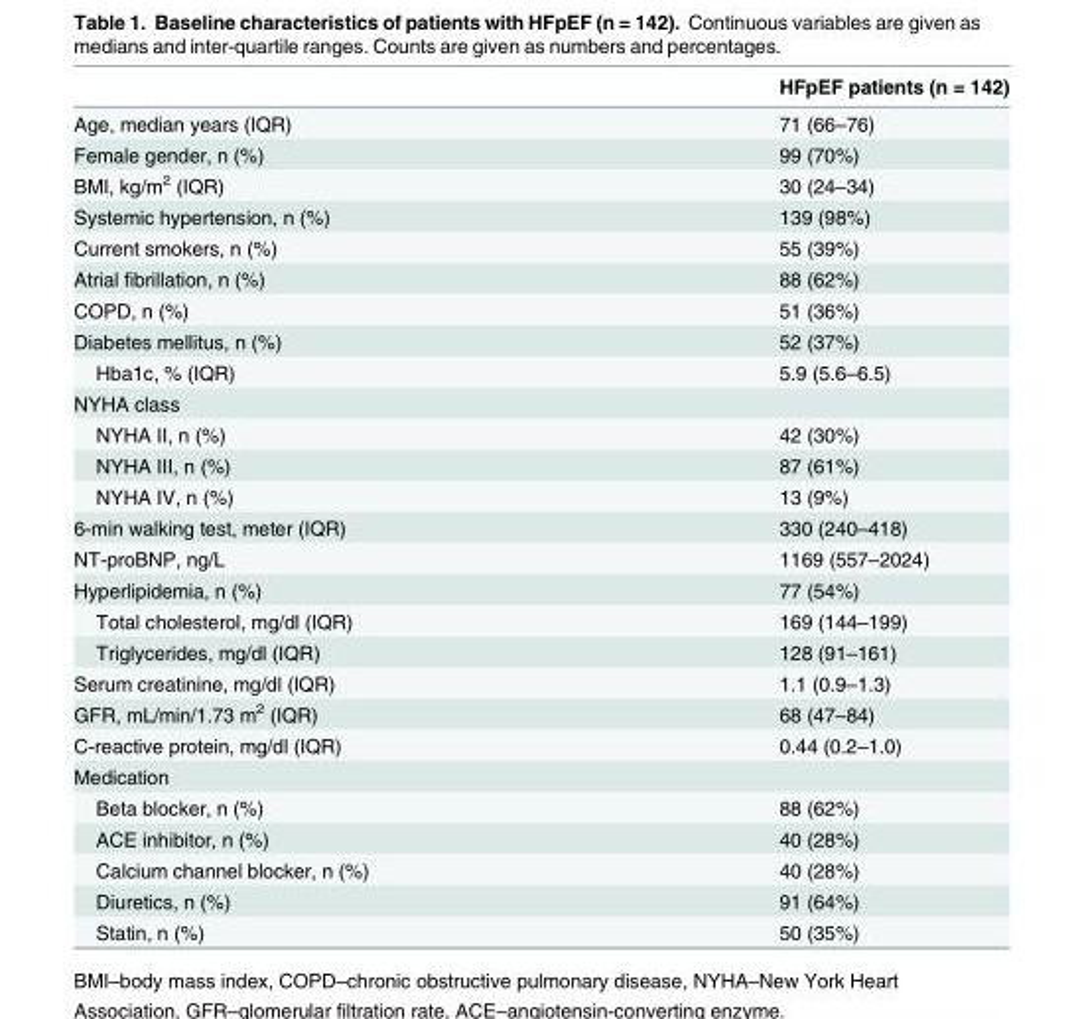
<table><thead><tr><td></td><td>HFpEF patients (n = 142)</td></tr></thead><tbody><tr><td>Age, median years (IQR)</td><td>71 (66–76)</td></tr><tr><td>Female gender, n (%)</td><td>99 (70%)</td></tr><tr><td>BMI, kg/m<sup>2</sup> (IQR)</td><td>30 (24–34)</td></tr><tr><td>Systemic hypertension, n (%)</td><td>139 (98%)</td></tr><tr><td>Current smokers, n (%)</td><td>55 (39%)</td></tr><tr><td>Atrial fibrillation, n (%)</td><td>88 (62%)</td></tr><tr><td>COPD, n (%)</td><td>51 (36%)</td></tr><tr><td>Diabetes mellitus, n (%)</td><td>52 (37%)</td></tr><tr><td>Hba1c, % (IQR)</td><td>5.9 (5.6–6.5)</td></tr><tr><td colspan="2">NYHA class</td></tr><tr><td>NYHA II, n (%)</td><td>42 (30%)</td></tr><tr><td>NYHA III, n (%)</td><td>87 (61%)</td></tr><tr><td>NYHA IV, n (%)</td><td>13 (9%)</td></tr><tr><td>6-min walking test, meter (IQR)</td><td>330 (240–418)</td></tr><tr><td>NT-proBNP, ng/L</td><td>1169 (557–2024)</td></tr><tr><td>Hyperlipidemia, n (%)</td><td>77 (54%)</td></tr><tr><td>Total cholesterol, mg/dl (IQR)</td><td>169 (144–199)</td></tr><tr><td>Triglycerides, mg/dl (IQR)</td><td>128 (91–161)</td></tr><tr><td>Serum creatinine, mg/dl (IQR)</td><td>1.1 (0.9–1.3)</td></tr><tr><td>GFR, mL/min/1.73 m<sup>2</sup> (IQR)</td><td>68 (47–84)</td></tr><tr><td>C-reactive protein, mg/dl (IQR)</td><td>0.44 (0.2–1.0)</td></tr><tr><td colspan="2">Medication</td></tr><tr><td>Beta blocker, n (%)</td><td>88 (62%)</td></tr><tr><td>ACE inhibitor, n (%)</td><td>40 (28%)</td></tr><tr><td>Calcium channel blocker, n (%)</td><td>40 (28%)</td></tr><tr><td>Diuretics, n (%)</td><td>91 (64%)</td></tr><tr><td>Statin, n (%)</td><td>50 (35%)</td></tr></tbody></table>